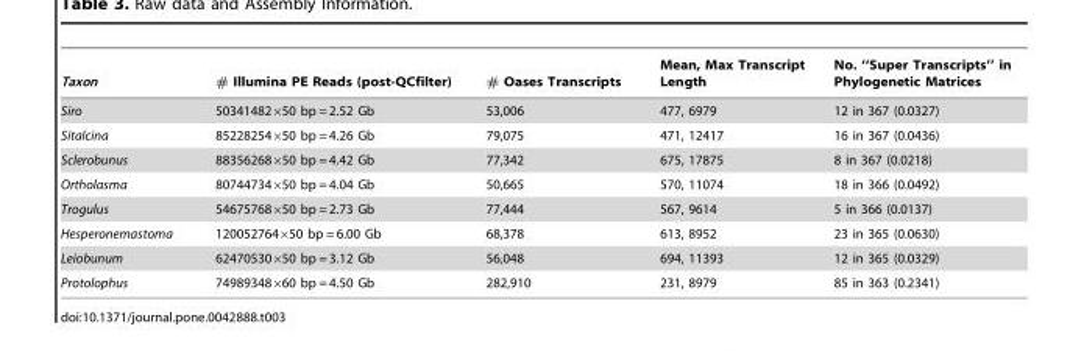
<table><thead><tr><td>Taxon</td><td># Illumina PE Reads (post-QCfilter)</td><td># Oases Transcripts</td><td>Mean, Max Transcript Length</td><td>No. ‘‘Super Transcripts’’ in Phylogenetic Matrices</td></tr></thead><tbody><tr><td>Siro</td><td>50341482×50 bp = 2.52 Gb</td><td>53,006</td><td>477, 6979</td><td>12 in 367 (0.0327)</td></tr><tr><td>Sitalcina</td><td>85228254×50 bp = 4.26 Gb</td><td>79,075</td><td>471, 12417</td><td>16 in 367 (0.0436)</td></tr><tr><td>Sclerobunus</td><td>88356268×50 bp = 4.42 Gb</td><td>77,342</td><td>675, 17875</td><td>8 in 367 (0.0218)</td></tr><tr><td>Ortholasma</td><td>80744734×50 bp = 4.04 Gb</td><td>50,665</td><td>570, 11074</td><td>18 in 366 (0.0492)</td></tr><tr><td>Trogulus</td><td>54675768×50 bp = 2.73 Gb</td><td>77,444</td><td>567, 9614</td><td>5 in 366 (0.0137)</td></tr><tr><td>Hesperonemastoma</td><td>120052764×50 bp = 6.00 Gb</td><td>68,378</td><td>613, 8952</td><td>23 in 365 (0.0630)</td></tr><tr><td>Leiobunum</td><td>62470530×50 bp = 3.12 Gb</td><td>56,048</td><td>694, 11393</td><td>12 in 365 (0.0329)</td></tr><tr><td>Protolophus</td><td>74989348×60 bp = 4.50 Gb</td><td>282,910</td><td>231, 8979</td><td>85 in 363 (0.2341)</td></tr></tbody></table>